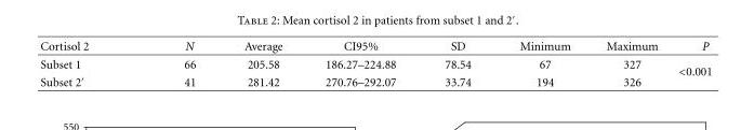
<table><thead><tr><td>Cortisol 2</td><td>N</td><td>Average</td><td>CI95%</td><td>SD</td><td>Minimum</td><td>Maximum</td><td>P</td></tr></thead><tbody><tr><td>Subset 1</td><td>66</td><td>205.58</td><td>186.27–224.88</td><td>78.54</td><td>67</td><td>327</td><td rowspan="2">&lt;0.001</td></tr><tr><td>Subset 2′</td><td>41</td><td>281.42</td><td>270.76–292.07</td><td>33.74</td><td>194</td><td>326</td></tr></tbody></table>